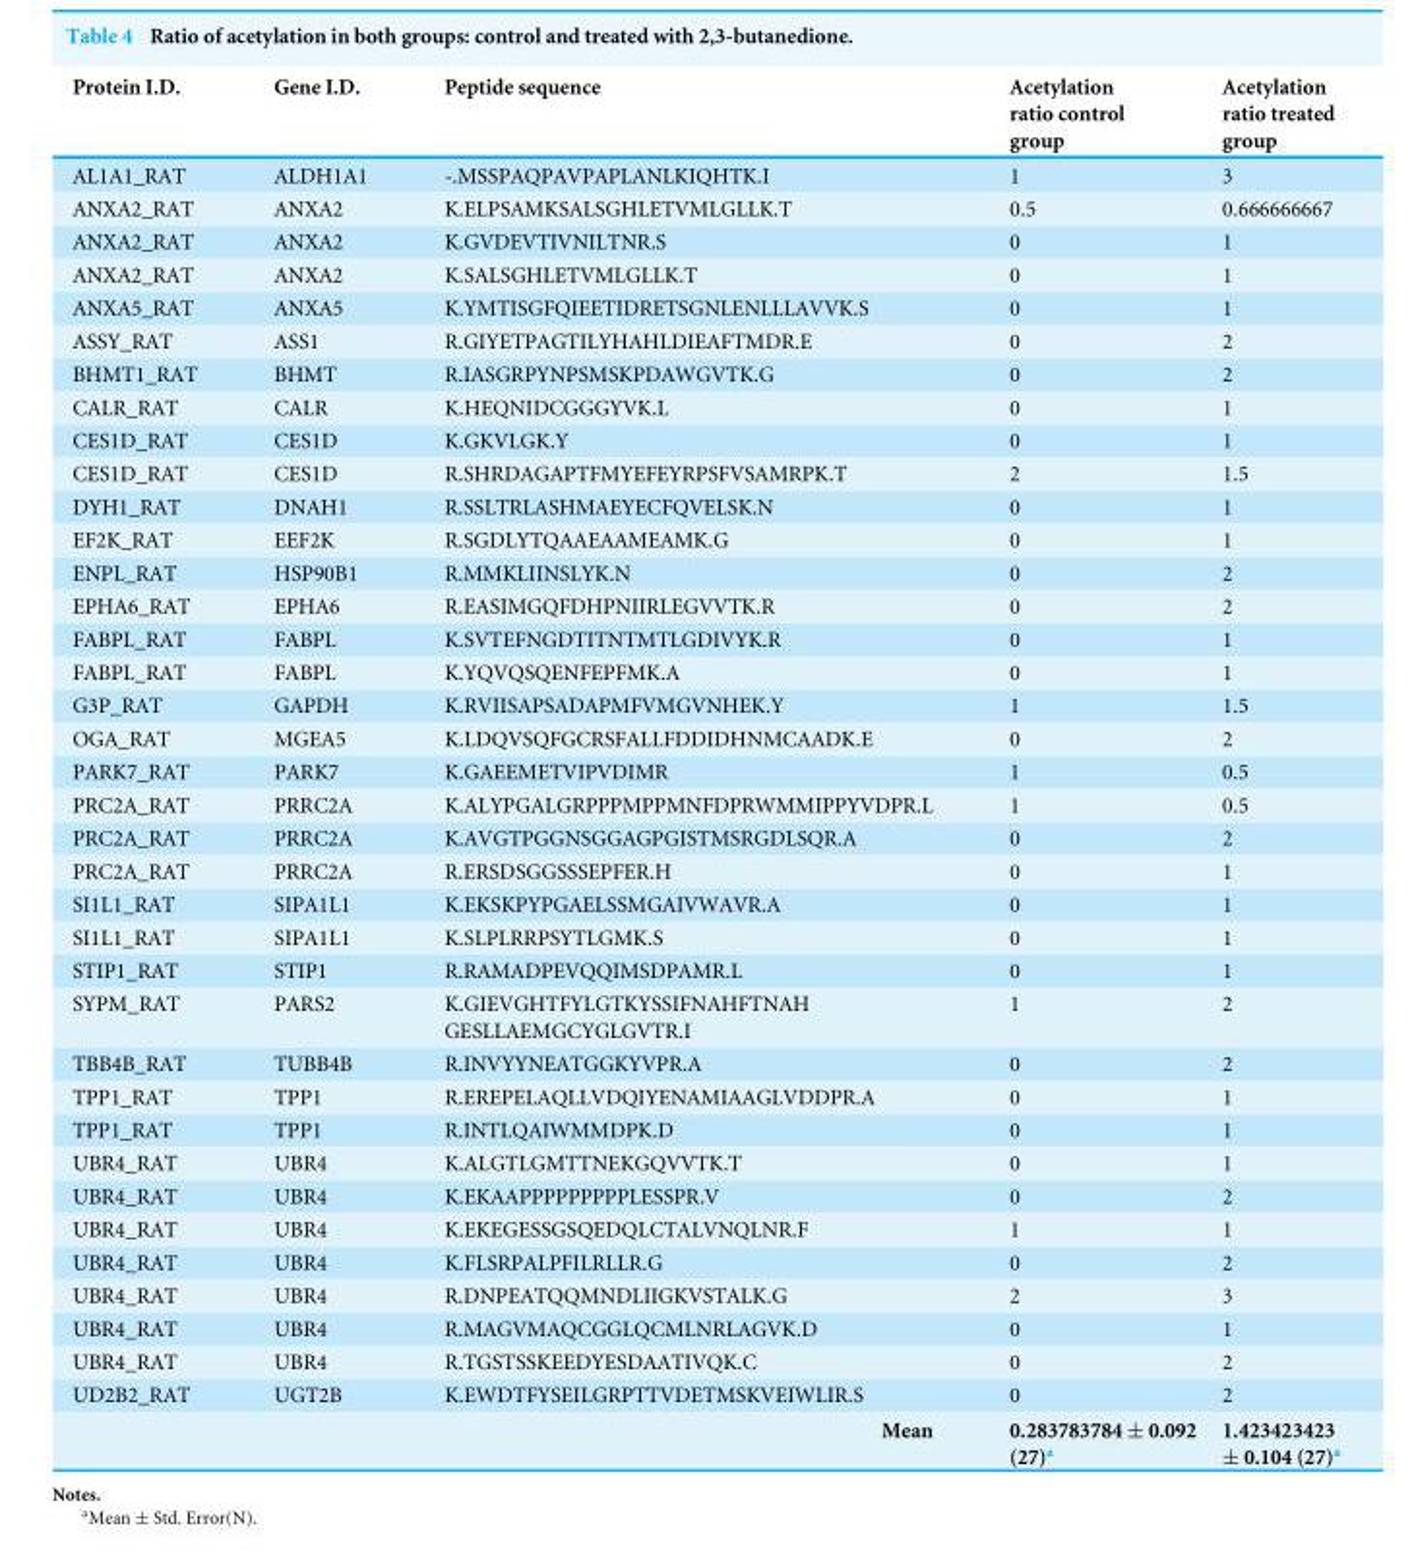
<table><thead><tr><td>Protein I.D.</td><td>Gene I.D.</td><td>Peptide sequence</td><td>Acetylation ratio control group</td><td>Acetylation ratio treated group</td></tr></thead><tbody><tr><td>AL1A1_RAT</td><td>ALDH1A1</td><td>-.MSSPAQPAVPAPLANLKIQHTK.I</td><td>1</td><td>3</td></tr><tr><td>ANXA2_RAT</td><td>ANXA2</td><td>K.ELPSAMKSALSGHLETVMLGLLK.T</td><td>0.5</td><td>0.666666667</td></tr><tr><td>ANXA2_RAT</td><td>ANXA2</td><td>K.GVDEVTIVNILTNR.S</td><td>0</td><td>1</td></tr><tr><td>ANXA2_RAT</td><td>ANXA2</td><td>K.SALSGHLETVMLGLLK.T</td><td>0</td><td>1</td></tr><tr><td>ANXA5_RAT</td><td>ANXA5</td><td>K.YMTISGFQIEETIDRETSGNLENLLLAVVK.S</td><td>0</td><td>1</td></tr><tr><td>ASSY_RAT</td><td>ASS1</td><td>R.GIYETPAGTILYHAHLDIEAFTMDR.E</td><td>0</td><td>2</td></tr><tr><td>BHMT1_RAT</td><td>BHMT</td><td>R.IASGRPYNPSMSKPDAWGVTK.G</td><td>0</td><td>2</td></tr><tr><td>CALR_RAT</td><td>CALR</td><td>K.HEQNIDCGGGYVK.L</td><td>0</td><td>1</td></tr><tr><td>CES1D_RAT</td><td>CES1D</td><td>K.GKVLGK.Y</td><td>0</td><td>1</td></tr><tr><td>CES1D_RAT</td><td>CES1D</td><td>R.SHRDAGAPTFMYEFEYRPSFVSAMRPK.T</td><td>2</td><td>1.5</td></tr><tr><td>DYH1_RAT</td><td>DNAH1</td><td>R.SSLTRLASHMAEYECFQVELSK.N</td><td>0</td><td>1</td></tr><tr><td>EF2K_RAT</td><td>EEF2K</td><td>R.SGDLYTQAAEAAMEAMK.G</td><td>0</td><td>1</td></tr><tr><td>ENPL_RAT</td><td>HSP90B1</td><td>R.MMKLIINSLYK.N</td><td>0</td><td>2</td></tr><tr><td>EPHA6_RAT</td><td>EPHA6</td><td>R.EASIMGQFDHPNIIRLEGVVTK.R</td><td>0</td><td>2</td></tr><tr><td>FABPL_RAT</td><td>FABPL</td><td>K.SVTEFNGDTITNTMTLGDIVYK.R</td><td>0</td><td>1</td></tr><tr><td>FABPL_RAT</td><td>FABPL</td><td>K.YQVQSQENFEPFMK.A</td><td>0</td><td>1</td></tr><tr><td>G3P_RAT</td><td>GAPDH</td><td>K.RVIISAPSADAPMFVMGVNHEK.Y</td><td>1</td><td>1.5</td></tr><tr><td>OGA_RAT</td><td>MGEA5</td><td>K.LDQVSQFGCRSFALLFDDIDHNMCAADK.E</td><td>0</td><td>2</td></tr><tr><td>PARK7_RAT</td><td>PARK7</td><td>K.GAEEMETVIPVDIMR</td><td>1</td><td>0.5</td></tr><tr><td>PRC2A_RAT</td><td>PRRC2A</td><td>K.ALYPGALGRPPPMPPMNFDPRWMMIPPYVDPR.L</td><td>1</td><td>0.5</td></tr><tr><td>PRC2A_RAT</td><td>PRRC2A</td><td>K.AVGTPGGNSGGAGPGISTMSRGDLSQR.A</td><td>0</td><td>2</td></tr><tr><td>PRC2A_RAT</td><td>PRRC2A</td><td>R.ERSDSGGSSSEPFER.H</td><td>0</td><td>1</td></tr><tr><td>SI1L1_RAT</td><td>SIPA1L1</td><td>K.EKSKPYPGAELSSMGAIVWAVR.A</td><td>0</td><td>1</td></tr><tr><td>SI1L1_RAT</td><td>SIPA1L1</td><td>K.SLPLRRPSYTLGMK.S</td><td>0</td><td>1</td></tr><tr><td>STIP1_RAT</td><td>STIP1</td><td>R.RAMADPEVQQIMSDPAMR.L</td><td>0</td><td>1</td></tr><tr><td>SYPM_RAT</td><td>PARS2</td><td>K.GIEVGHTFYLGTKYSSIFNAHFTNAH GESLLAEMGCYGLGVTR.I</td><td>1</td><td>2</td></tr><tr><td>TBB4B_RAT</td><td>TUBB4B</td><td>R.INVYYNEATGGKYVPR.A</td><td>0</td><td>2</td></tr><tr><td>TPP1_RAT</td><td>TPP1</td><td>R.EREPELAQLLVDQIYENAMIAAGLVDDPR.A</td><td>0</td><td>1</td></tr><tr><td>TPP1_RAT</td><td>TPP1</td><td>R.INTLQAIWMMDPK.D</td><td>0</td><td>1</td></tr><tr><td>UBR4_RAT</td><td>UBR4</td><td>K.ALGTLGMTTNEKGQVVTK.T</td><td>0</td><td>1</td></tr><tr><td>UBR4_RAT</td><td>UBR4</td><td>K.EKAAPPPPPPPPPLESSPR.V</td><td>0</td><td>2</td></tr><tr><td>UBR4_RAT</td><td>UBR4</td><td>K.EKEGESSGSQEDQLCTALVNQLNR.F</td><td>1</td><td>1</td></tr><tr><td>UBR4_RAT</td><td>UBR4</td><td>K.FLSRPALPFILRLLR.G</td><td>0</td><td>2</td></tr><tr><td>UBR4_RAT</td><td>UBR4</td><td>R.DNPEATQQMNDLIIGKVSTALK.G</td><td>2</td><td>3</td></tr><tr><td>UBR4_RAT</td><td>UBR4</td><td>R.MAGVMAQCGGLQCMLNRLAGVK.D</td><td>0</td><td>1</td></tr><tr><td>UBR4_RAT</td><td>UBR4</td><td>R.TGSTSSKEEDYESDAATIVQK.C</td><td>0</td><td>2</td></tr><tr><td>UD2B2_RAT</td><td>UGT2B</td><td>K.EWDTFYSEILGRPTTVDETMSKVEIWLIR.S</td><td>0</td><td>2</td></tr><tr><td colspan="3">Mean</td><td>0.283783784 ± 0.092 (27)<sup>a</sup></td><td>1.423423423 ± 0.104 (27)<sup>a</sup></td></tr></tbody></table>